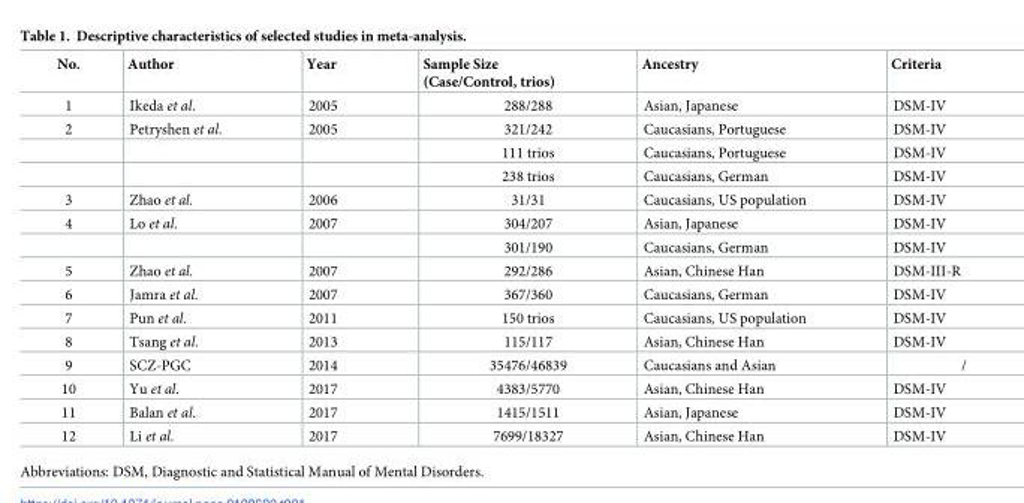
<table><thead><tr><td>No.</td><td>Author</td><td>Year</td><td>Sample Size (Case/Control, trios)</td><td>Ancestry</td><td>Criteria</td></tr></thead><tbody><tr><td>1</td><td>Ikeda et al.</td><td>2005</td><td>288/288</td><td>Asian, Japanese</td><td>DSM-IV</td></tr><tr><td rowspan="3">2</td><td>Petryshen et al.</td><td>2005</td><td>321/242</td><td>Caucasians, Portuguese</td><td>DSM-IV</td></tr><tr><td></td><td></td><td>111 trios</td><td>Caucasians, Portuguese</td><td>DSM-IV</td></tr><tr><td></td><td></td><td>238 trios</td><td>Caucasians, German</td><td>DSM-IV</td></tr><tr><td>3</td><td>Zhao et al.</td><td>2006</td><td>31/31</td><td>Caucasians, US population</td><td>DSM-IV</td></tr><tr><td rowspan="2">4</td><td>Lo et al.</td><td>2007</td><td>304/207</td><td>Asian, Japanese</td><td>DSM-IV</td></tr><tr><td></td><td></td><td>301/190</td><td>Caucasians, German</td><td>DSM-IV</td></tr><tr><td>5</td><td>Zhao et al.</td><td>2007</td><td>292/286</td><td>Asian, Chinese Han</td><td>DSM-III-R</td></tr><tr><td>6</td><td>Jamra et al.</td><td>2007</td><td>367/360</td><td>Caucasians, German</td><td>DSM-IV</td></tr><tr><td>7</td><td>Pun et al.</td><td>2011</td><td>150 trios</td><td>Caucasians, US population</td><td>DSM-IV</td></tr><tr><td>8</td><td>Tsang et al.</td><td>2013</td><td>115/117</td><td>Asian, Chinese Han</td><td>DSM-IV</td></tr><tr><td>9</td><td>SCZ-PGC</td><td>2014</td><td>35476/46839</td><td>Caucasians and Asian</td><td>/</td></tr><tr><td>10</td><td>Yu et al.</td><td>2017</td><td>4383/5770</td><td>Asian, Chinese Han</td><td>DSM-IV</td></tr><tr><td>11</td><td>Balan et al.</td><td>2017</td><td>1415/1511</td><td>Asian, Japanese</td><td>DSM-IV</td></tr><tr><td>12</td><td>Li et al.</td><td>2017</td><td>7699/18327</td><td>Asian, Chinese Han</td><td>DSM-IV</td></tr></tbody></table>